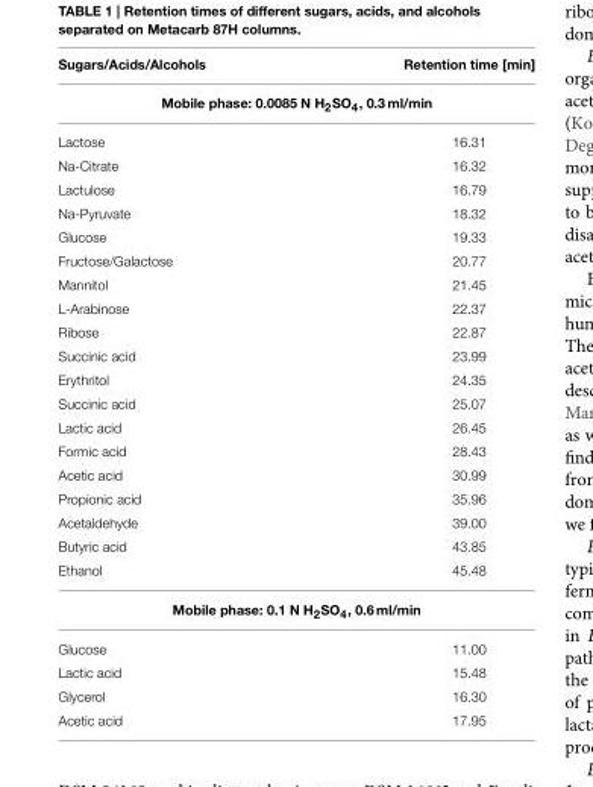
<table><thead><tr><td>Sugars/Acids/Alcohols</td><td>Retention time [min]</td></tr></thead><tbody><tr><td colspan="2">Mobile phase: 0.0085 N H<sub>2</sub>SO<sub>4</sub>, 0.3 ml/min</td></tr><tr><td>Lactose</td><td>16.31</td></tr><tr><td>Na-Citrate</td><td>16.32</td></tr><tr><td>Lactulose</td><td>16.79</td></tr><tr><td>Na-Pyruvate</td><td>18.32</td></tr><tr><td>Glucose</td><td>19.33</td></tr><tr><td>Fructose/Galactose</td><td>20.77</td></tr><tr><td>Mannitol</td><td>21.45</td></tr><tr><td>L-Arabinose</td><td>22.37</td></tr><tr><td>Ribose</td><td>22.87</td></tr><tr><td>Succinic acid</td><td>23.99</td></tr><tr><td>Erythritol</td><td>24.35</td></tr><tr><td>Succinic acid</td><td>25.07</td></tr><tr><td>Lactic acid</td><td>26.45</td></tr><tr><td>Formic acid</td><td>28.43</td></tr><tr><td>Acetic acid</td><td>30.99</td></tr><tr><td>Propionic acid</td><td>35.96</td></tr><tr><td>Acetaldehyde</td><td>39.00</td></tr><tr><td>Butyric acid</td><td>43.85</td></tr><tr><td>Ethanol</td><td>45.48</td></tr><tr><td colspan="2">Mobile phase: 0.1 N H<sub>2</sub>SO<sub>4</sub>, 0.6 ml/min</td></tr><tr><td>Glucose</td><td>11.00</td></tr><tr><td>Lactic acid</td><td>15.48</td></tr><tr><td>Glycerol</td><td>16.30</td></tr><tr><td>Acetic acid</td><td>17.95</td></tr></tbody></table>